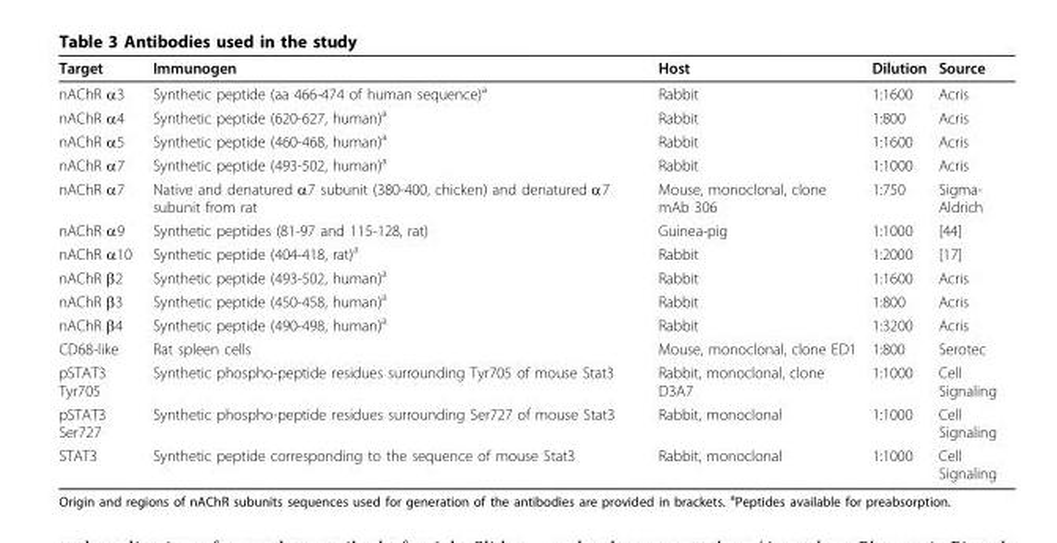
<table><thead><tr><td>Target</td><td>Immunogen</td><td>Host</td><td>Dilution</td><td>Source</td></tr></thead><tbody><tr><td>nAChR α3</td><td>Synthetic peptide (aa 466-474 of human sequence)<sup>a</sup></td><td>Rabbit</td><td>1:1600</td><td>Acris</td></tr><tr><td>nAChR α4</td><td>Synthetic peptide (620-627, human)<sup>a</sup></td><td>Rabbit</td><td>1:800</td><td>Acris</td></tr><tr><td>nAChR α5</td><td>Synthetic peptide (460-468, human)<sup>a</sup></td><td>Rabbit</td><td>1:1600</td><td>Acris</td></tr><tr><td>nAChR α7</td><td>Synthetic peptide (493-502, human)<sup>a</sup></td><td>Rabbit</td><td>1:1000</td><td>Acris</td></tr><tr><td>nAChR α7</td><td>Native and denatured α7 subunit (380-400, chicken) and denatured α7 subunit from rat</td><td>Mouse, monoclonal, clone mAb 306</td><td>1:750</td><td>Sigma- Aldrich</td></tr><tr><td>nAChR α9</td><td>Synthetic peptides (81-97 and 115-128, rat)</td><td>Guinea-pig</td><td>1:1000</td><td>[44]</td></tr><tr><td>nAChR α10</td><td>Synthetic peptide (404-418, rat)<sup>a</sup></td><td>Rabbit</td><td>1:2000</td><td>[17]</td></tr><tr><td>nAChR β2</td><td>Synthetic peptide (493-502, human)<sup>a</sup></td><td>Rabbit</td><td>1:1600</td><td>Acris</td></tr><tr><td>nAChR β3</td><td>Synthetic peptide (450-458, human)<sup>a</sup></td><td>Rabbit</td><td>1:800</td><td>Acris</td></tr><tr><td>nAChR β4</td><td>Synthetic peptide (490-498, human)<sup>a</sup></td><td>Rabbit</td><td>1:3200</td><td>Acris</td></tr><tr><td>CD68-like</td><td>Rat spleen cells</td><td>Mouse, monoclonal, clone ED1</td><td>1:800</td><td>Serotec</td></tr><tr><td>pSTAT3 Tyr705</td><td>Synthetic phospho-peptide residues surrounding Tyr705 of mouse Stat3</td><td>Rabbit, monoclonal, clone D3A7</td><td>1:1000</td><td>Cell Signaling</td></tr><tr><td>pSTAT3 Ser727</td><td>Synthetic phospho-peptide residues surrounding Ser727 of mouse Stat3</td><td>Rabbit, monoclonal</td><td>1:1000</td><td>Cell Signaling</td></tr><tr><td>STAT3</td><td>Synthetic peptide corresponding to the sequence of mouse Stat3</td><td>Rabbit, monoclonal</td><td>1:1000</td><td>Cell Signaling</td></tr></tbody></table>